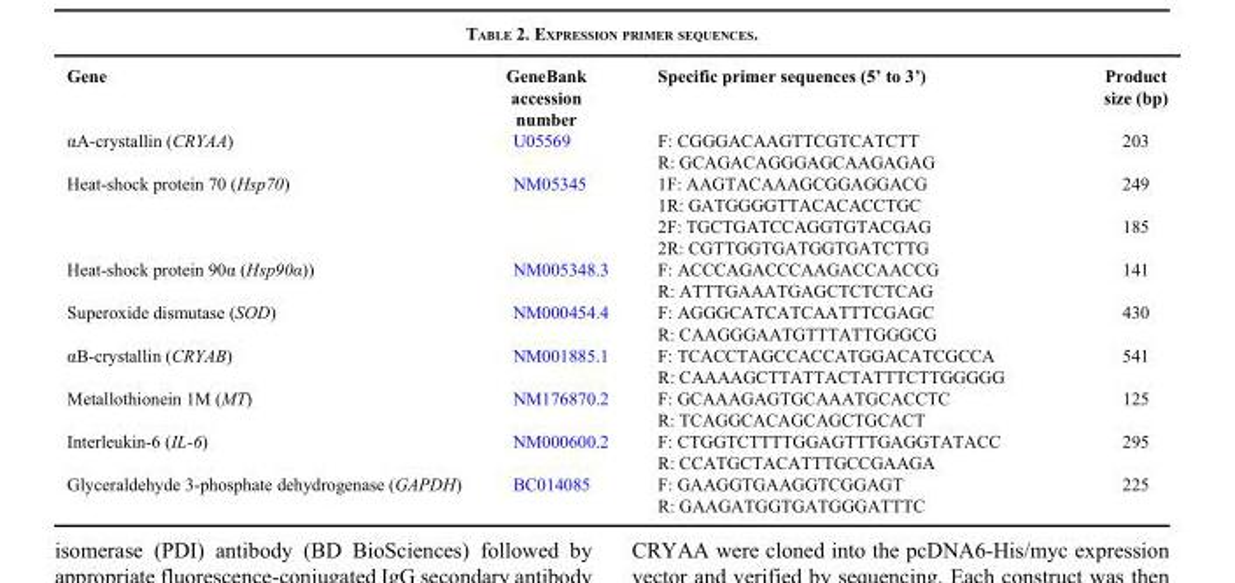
<table><thead><tr><td>Gene</td><td>GeneBank accession number</td><td>Specific primer sequences (5’ to 3’)</td><td>Product size (bp)</td></tr></thead><tbody><tr><td rowspan="2">αA-crystallin (CRYAA)</td><td>U05569</td><td>F: CGGGACAAGTTCGTCATCTT</td><td>203</td></tr><tr><td></td><td>R: GCAGACAGGGAGCAAGAGAG</td><td></td></tr><tr><td rowspan="4">Heat-shock protein 70 (Hsp70)</td><td>NM05345</td><td>1F: AAGTACAAAGCGGAGGACG</td><td>249</td></tr><tr><td></td><td>1R: GATGGGGTTACACACCTGC</td><td></td></tr><tr><td></td><td>2F: TGCTGATCCAGGTGTACGAG</td><td>185</td></tr><tr><td></td><td>2R: CGTTGGTGATGGTGATCTTG</td><td></td></tr><tr><td rowspan="2">Heat-shock protein 90α (Hsp90α))</td><td>NM005348.3</td><td>F: ACCCAGACCCAAGACCAACCG</td><td>141</td></tr><tr><td></td><td>R: ATTTGAAATGAGCTCTCTCAG</td><td></td></tr><tr><td rowspan="2">Superoxide dismutase (SOD)</td><td>NM000454.4</td><td>F: AGGGCATCATCAATTTCGAGC</td><td>430</td></tr><tr><td></td><td>R: CAAGGGAATGTTTATTGGGCG</td><td></td></tr><tr><td rowspan="2">αB-crystallin (CRYAB)</td><td>NM001885.1</td><td>F: TCACCTAGCCACCATGGACATCGCCA</td><td>541</td></tr><tr><td></td><td>R: CAAAAGCTTATTACTATTTCTTGGGGG</td><td></td></tr><tr><td rowspan="2">Metallothionein 1M (MT)</td><td>NM176870.2</td><td>F: GCAAAGAGTGCAAATGCACCTC</td><td>125</td></tr><tr><td></td><td>R: TCAGGCACAGCAGCTGCACT</td><td></td></tr><tr><td rowspan="2">Interleukin-6 (IL-6)</td><td>NM000600.2</td><td>F: CTGGTCTTTTGGAGTTTGAGGTATACC</td><td>295</td></tr><tr><td></td><td>R: CCATGCTACATTTGCCGAAGA</td><td></td></tr><tr><td rowspan="2">Glyceraldehyde 3-phosphate dehydrogenase (GAPDH)</td><td>BC014085</td><td>F: GAAGGTGAAGGTCGGAGT</td><td>225</td></tr><tr><td></td><td>R: GAAGATGGTGATGGGATTTC</td><td></td></tr></tbody></table>